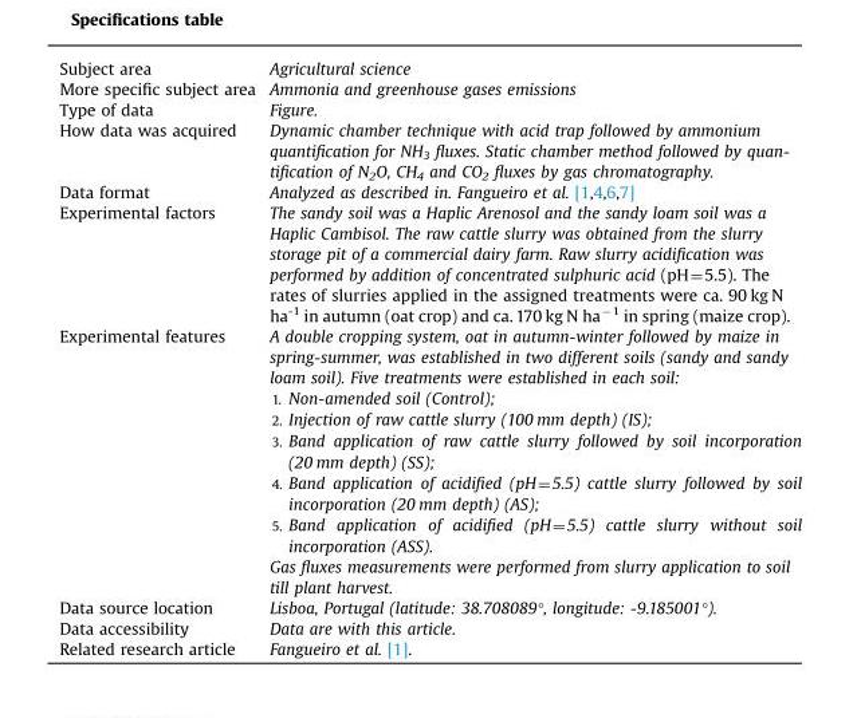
<table><tbody><tr><td>Subject area</td><td>Agricultural science</td></tr><tr><td>More specific subject area</td><td>Ammonia and greenhouse gases emissions</td></tr><tr><td>Type of data</td><td>Figure.</td></tr><tr><td>How data was acquired</td><td>Dynamic chamber technique with acid trap followed by ammonium quantification for NH3 fluxes. Static chamber method followed by quan- tification of N2O, CH4 and CO2 fluxes by gas chromatography.</td></tr><tr><td>Data format</td><td>Analyzed as described in. Fangueiro et al. [1,4,6,7]</td></tr><tr><td>Experimental factors</td><td>The sandy soil was a Haplic Arenosol and the sandy loam soil was a Haplic Cambisol. The raw cattle slurry was obtained from the slurry storage pit of a commercial dairy farm. Raw slurry acidification was performed by addition of concentrated sulphuric acid (pH=5.5). The rates of slurries applied in the assigned treatments were ca. 90 kg N ha<sup>-1</sup> in autumn (oat crop) and ca. 170 kg N ha<sup>−1</sup> in spring (maize crop).</td></tr><tr><td rowspan="3">Experimental features</td><td>A double cropping system, oat in autumn-winter followed by maize in spring-summer, was established in two different soils (sandy and sandy loam soil). Five treatments were established in each soil:</td></tr><tr><td>1. Non-amended soil (Control); 2. Injection of raw cattle slurry (100 mm depth) (IS); 3. Band application of raw cattle slurry followed by soil incorporation (20 mm depth) (SS); 4. Band application of acidified (pH=5.5) cattle slurry followed by soil incorporation (20 mm depth) (AS); 5. Band application of acidified (pH=5.5) cattle slurry without soil incorporation (ASS).</td></tr><tr><td>Gas fluxes measurements were performed from slurry application to soil till plant harvest.</td></tr><tr><td>Data source location</td><td>Lisboa, Portugal (latitude: 38.708089°, longitude: -9.185001°).</td></tr><tr><td>Data accessibility</td><td>Data are with this article.</td></tr><tr><td>Related research article</td><td>Fangueiro et al. [1].</td></tr></tbody></table>